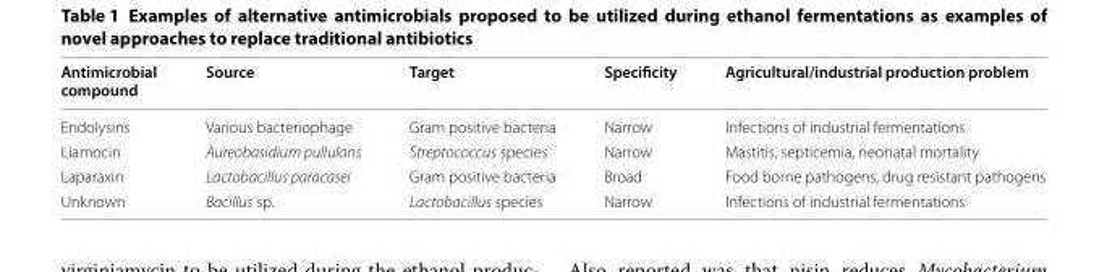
<table><thead><tr><td>Antimicrobial compound</td><td>Source</td><td>Target</td><td>Specificity</td><td>Agricultural/industrial production problem</td></tr></thead><tbody><tr><td>Endolysins</td><td>Various bacteriophage</td><td>Gram positive bacteria</td><td>Narrow</td><td>Infections of industrial fermentations</td></tr><tr><td>Liamocin</td><td>Aureobasidium pullulans</td><td>Streptococcus species</td><td>Narrow</td><td>Mastitis, septicemia, neonatal mortality</td></tr><tr><td>Laparaxin</td><td>Lactobacillus paracasei</td><td>Gram positive bacteria</td><td>Broad</td><td>Food borne pathogens, drug resistant pathogens</td></tr><tr><td>Unknown</td><td>Bacillus sp.</td><td>Lactobacillus species</td><td>Narrow</td><td>Infections of industrial fermentations</td></tr></tbody></table>